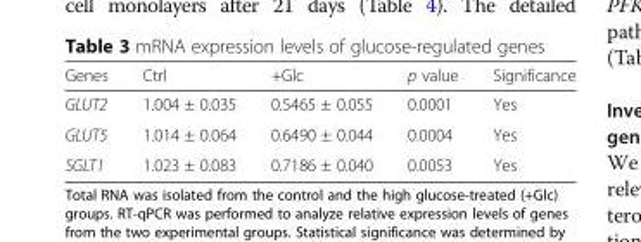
<table><thead><tr><td>Genes</td><td>Ctrl</td><td>+Glc</td><td>p value</td><td>Significance</td></tr></thead><tbody><tr><td>GLUT2</td><td>1.004 ± 0.035</td><td>0.5465 ± 0.055</td><td>0.0001</td><td>Yes</td></tr><tr><td>GLUT5</td><td>1.014 ± 0.064</td><td>0.6490 ± 0.044</td><td>0.0004</td><td>Yes</td></tr><tr><td>SGLT1</td><td>1.023 ± 0.083</td><td>0.7186 ± 0.040</td><td>0.0053</td><td>Yes</td></tr></tbody></table>